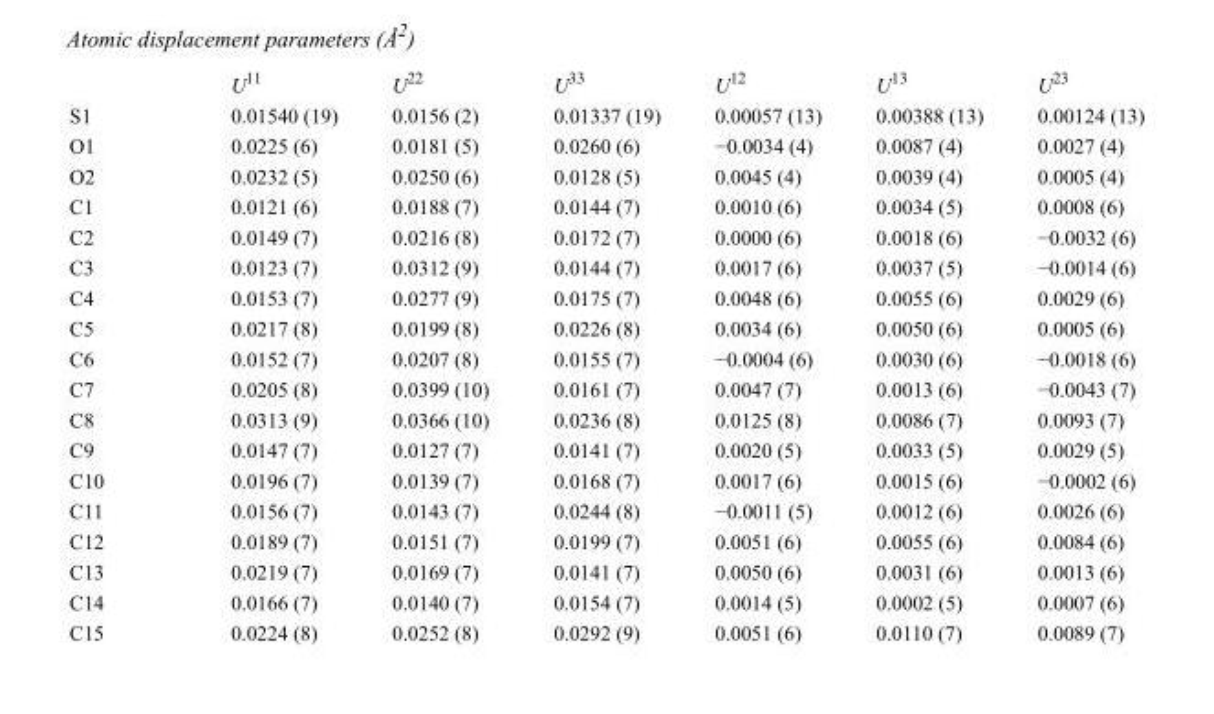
<table><thead><tr><td></td><td>U<sup>11</sup></td><td>U<sup>22</sup></td><td>U<sup>33</sup></td><td>U<sup>12</sup></td><td>U<sup>13</sup></td><td>U<sup>23</sup></td></tr></thead><tbody><tr><td>S1</td><td>0.01540 (19)</td><td>0.0156 (2)</td><td>0.01337 (19)</td><td>0.00057 (13)</td><td>0.00388 (13)</td><td>0.00124 (13)</td></tr><tr><td>O1</td><td>0.0225 (6)</td><td>0.0181 (5)</td><td>0.0260 (6)</td><td>−0.0034 (4)</td><td>0.0087 (4)</td><td>0.0027 (4)</td></tr><tr><td>O2</td><td>0.0232 (5)</td><td>0.0250 (6)</td><td>0.0128 (5)</td><td>0.0045 (4)</td><td>0.0039 (4)</td><td>0.0005 (4)</td></tr><tr><td>C1</td><td>0.0121 (6)</td><td>0.0188 (7)</td><td>0.0144 (7)</td><td>0.0010 (6)</td><td>0.0034 (5)</td><td>0.0008 (6)</td></tr><tr><td>C2</td><td>0.0149 (7)</td><td>0.0216 (8)</td><td>0.0172 (7)</td><td>0.0000 (6)</td><td>0.0018 (6)</td><td>−0.0032 (6)</td></tr><tr><td>C3</td><td>0.0123 (7)</td><td>0.0312 (9)</td><td>0.0144 (7)</td><td>0.0017 (6)</td><td>0.0037 (5)</td><td>−0.0014 (6)</td></tr><tr><td>C4</td><td>0.0153 (7)</td><td>0.0277 (9)</td><td>0.0175 (7)</td><td>0.0048 (6)</td><td>0.0055 (6)</td><td>0.0029 (6)</td></tr><tr><td>C5</td><td>0.0217 (8)</td><td>0.0199 (8)</td><td>0.0226 (8)</td><td>0.0034 (6)</td><td>0.0050 (6)</td><td>0.0005 (6)</td></tr><tr><td>C6</td><td>0.0152 (7)</td><td>0.0207 (8)</td><td>0.0155 (7)</td><td>−0.0004 (6)</td><td>0.0030 (6)</td><td>−0.0018 (6)</td></tr><tr><td>C7</td><td>0.0205 (8)</td><td>0.0399 (10)</td><td>0.0161 (7)</td><td>0.0047 (7)</td><td>0.0013 (6)</td><td>−0.0043 (7)</td></tr><tr><td>C8</td><td>0.0313 (9)</td><td>0.0366 (10)</td><td>0.0236 (8)</td><td>0.0125 (8)</td><td>0.0086 (7)</td><td>0.0093 (7)</td></tr><tr><td>C9</td><td>0.0147 (7)</td><td>0.0127 (7)</td><td>0.0141 (7)</td><td>0.0020 (5)</td><td>0.0033 (5)</td><td>0.0029 (5)</td></tr><tr><td>C10</td><td>0.0196 (7)</td><td>0.0139 (7)</td><td>0.0168 (7)</td><td>0.0017 (6)</td><td>0.0015 (6)</td><td>−0.0002 (6)</td></tr><tr><td>C11</td><td>0.0156 (7)</td><td>0.0143 (7)</td><td>0.0244 (8)</td><td>−0.0011 (5)</td><td>0.0012 (6)</td><td>0.0026 (6)</td></tr><tr><td>C12</td><td>0.0189 (7)</td><td>0.0151 (7)</td><td>0.0199 (7)</td><td>0.0051 (6)</td><td>0.0055 (6)</td><td>0.0084 (6)</td></tr><tr><td>C13</td><td>0.0219 (7)</td><td>0.0169 (7)</td><td>0.0141 (7)</td><td>0.0050 (6)</td><td>0.0031 (6)</td><td>0.0013 (6)</td></tr><tr><td>C14</td><td>0.0166 (7)</td><td>0.0140 (7)</td><td>0.0154 (7)</td><td>0.0014 (5)</td><td>0.0002 (5)</td><td>0.0007 (6)</td></tr><tr><td>C15</td><td>0.0224 (8)</td><td>0.0252 (8)</td><td>0.0292 (9)</td><td>0.0051 (6)</td><td>0.0110 (7)</td><td>0.0089 (7)</td></tr></tbody></table>